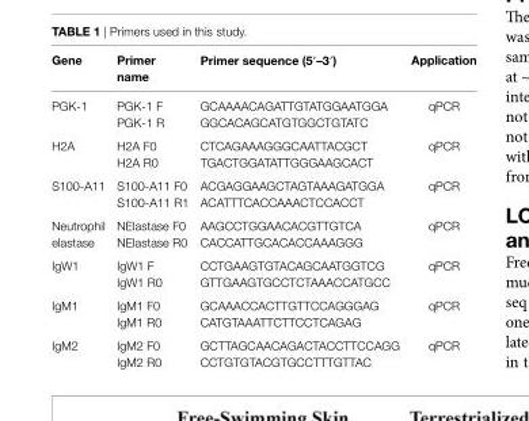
<table><thead><tr><td>gene</td><td>Primer name</td><td>Primer sequence (5′–3′)</td><td>application</td></tr></thead><tbody><tr><td rowspan="2">PGK-1</td><td>PGK-1 F</td><td>GCAAAACAGATTGTATGGAATGGA</td><td rowspan="2">qPCR</td></tr><tr><td>PGK-1 R</td><td>GGCACAGCATGTGGCTGTATC</td></tr><tr><td rowspan="2">H2A</td><td>H2A F0</td><td>CTCAGAAAGGGCAATTACGCT</td><td rowspan="2">qPCR</td></tr><tr><td>H2A R0</td><td>TGACTGGATATTGGGAAGCACT</td></tr><tr><td rowspan="2">S100-A11</td><td>S100-A11 F0</td><td>ACGAGGAAGCTAGTAAAGATGGA</td><td rowspan="2">qPCR</td></tr><tr><td>S100-A11 R1</td><td>ACATTTCACCAAACTCCACCT</td></tr><tr><td rowspan="2">Neutrophil elastase</td><td>NElastase F0</td><td>AAGCCTGGAACACGTTGTCA</td><td rowspan="2">qPCR</td></tr><tr><td>NElastase R0</td><td>CACCATTGCACACCAAAGGG</td></tr><tr><td rowspan="2">IgW1</td><td>IgW1 F</td><td>CCTGAAGTGTACAGCAATGGTCG</td><td rowspan="2">qPCR</td></tr><tr><td>IgW1 R0</td><td>GTTGAAGTGCCTCTAAACCATGCC</td></tr><tr><td rowspan="2">IgM1</td><td>IgM1 F0</td><td>GCAAACCACTTGTTCCAGGGAG</td><td rowspan="2">qPCR</td></tr><tr><td>IgM1 R0</td><td>CATGTAAATTCTTCCTCAGAG</td></tr><tr><td rowspan="2">IgM2</td><td>IgM2 F0</td><td>GCTTAGCAACAGACTACCTTCCAGG</td><td rowspan="2">qPCR</td></tr><tr><td>IgM2 R0</td><td>CCTGTGTACGTGCCTTTGTTAC</td></tr></tbody></table>